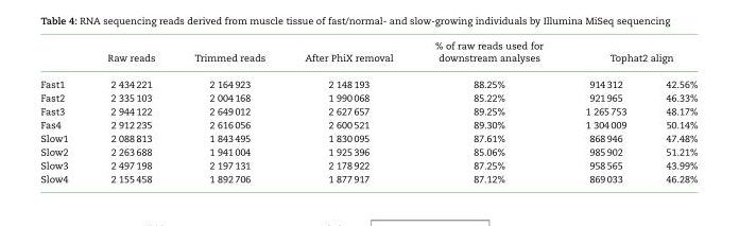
<table><thead><tr><td rowspan="2">Fast1</td><td rowspan="2">Raw reads 2 434 221</td><td rowspan="2">Trimmed reads 2 164 923</td><td rowspan="2">After PhiX removal 2 148 193</td><td rowspan="2">% of raw reads used for downstream analyses 88.25%</td><td colspan="2">Tophat2 align</td></tr><tr><td>914 312</td><td>42.56%</td></tr></thead><tbody><tr><td>Fast2</td><td>2 335 103</td><td>2 004 168</td><td>1 990 068</td><td>85.22%</td><td>921 965</td><td>46.33%</td></tr><tr><td>Fast3</td><td>2 944 122</td><td>2 649 012</td><td>2 627 657</td><td>89.25%</td><td>1 265 753</td><td>48.17%</td></tr><tr><td>Fas4</td><td>2 912 235</td><td>2 616 056</td><td>2 600 521</td><td>89.30%</td><td>1 304 009</td><td>50.14%</td></tr><tr><td>Slow1</td><td>2 088 813</td><td>1 843 495</td><td>1 830 095</td><td>87.61%</td><td>868 946</td><td>47.48%</td></tr><tr><td>Slow2</td><td>2 263 688</td><td>1 941 004</td><td>1 925 396</td><td>85.06%</td><td>985 902</td><td>51.21%</td></tr><tr><td>Slow3</td><td>2 497 198</td><td>2 197 131</td><td>2 178 922</td><td>87.25%</td><td>958 565</td><td>43.99%</td></tr><tr><td>Slow4</td><td>2 155 458</td><td>1 892 706</td><td>1 877 917</td><td>87.12%</td><td>869 033</td><td>46.28%</td></tr></tbody></table>